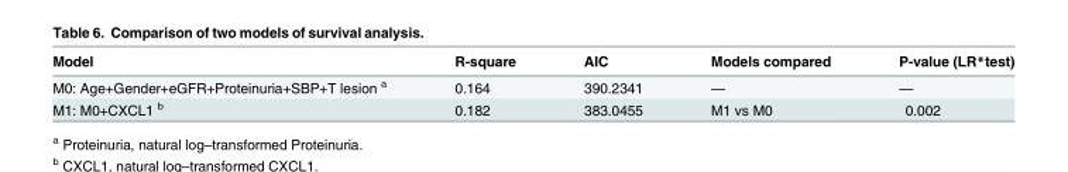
<table><thead><tr><td>Model</td><td>R-square</td><td>AIC</td><td>Models compared</td><td>P-value (LR*test)</td></tr></thead><tbody><tr><td>M0: Age+Gender+eGFR+Proteinuria+SBP+T lesion <sup>a</sup></td><td>0.164</td><td>390.2341</td><td>—</td><td>—</td></tr><tr><td>M1: M0+CXCL1 <sup>b</sup></td><td>0.182</td><td>383.0455</td><td>M1 vs M0</td><td>0.002</td></tr></tbody></table>